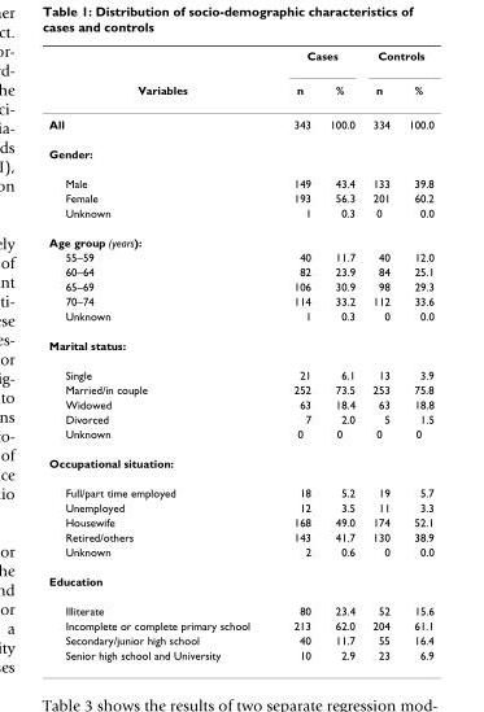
<table><thead><tr><td rowspan="2">Variables</td><td colspan="2">Cases</td><td colspan="2">Controls</td></tr><tr><td>n</td><td>%</td><td>n</td><td>%</td></tr></thead><tbody><tr><td>All</td><td>343</td><td>100.0</td><td>334</td><td>100.0</td></tr><tr><td colspan="5">Gender:</td></tr><tr><td>Male</td><td>149</td><td>43.4</td><td>133</td><td>39.8</td></tr><tr><td>Female</td><td>193</td><td>56.3</td><td>201</td><td>60.2</td></tr><tr><td>Unknown</td><td>1</td><td>0.3</td><td>0</td><td>0.0</td></tr><tr><td colspan="5">Age group (years):</td></tr><tr><td>55–59</td><td>40</td><td>11.7</td><td>40</td><td>12.0</td></tr><tr><td>60–64</td><td>82</td><td>23.9</td><td>84</td><td>25.1</td></tr><tr><td>65–69</td><td>106</td><td>30.9</td><td>98</td><td>29.3</td></tr><tr><td>70–74</td><td>114</td><td>33.2</td><td>112</td><td>33.6</td></tr><tr><td>Unknown</td><td>1</td><td>0.3</td><td>0</td><td>0.0</td></tr><tr><td colspan="5">Marital status:</td></tr><tr><td>Single</td><td>21</td><td>6.1</td><td>13</td><td>3.9</td></tr><tr><td>Married/in couple</td><td>252</td><td>73.5</td><td>253</td><td>75.8</td></tr><tr><td>Widowed</td><td>63</td><td>18.4</td><td>63</td><td>18.8</td></tr><tr><td>Divorced</td><td>7</td><td>2.0</td><td>5</td><td>1.5</td></tr><tr><td>Unknown</td><td>0</td><td>0</td><td>0</td><td>0</td></tr><tr><td colspan="5">Occupational situation:</td></tr><tr><td>Full/part time employed</td><td>18</td><td>5.2</td><td>19</td><td>5.7</td></tr><tr><td>Unemployed</td><td>12</td><td>3.5</td><td>11</td><td>3.3</td></tr><tr><td>Housewife</td><td>168</td><td>49.0</td><td>174</td><td>52.1</td></tr><tr><td>Retired/others</td><td>143</td><td>41.7</td><td>130</td><td>38.9</td></tr><tr><td>Unknown</td><td>2</td><td>0.6</td><td>0</td><td>0.0</td></tr><tr><td colspan="5">Education</td></tr><tr><td>Illiterate</td><td>80</td><td>23.4</td><td>52</td><td>15.6</td></tr><tr><td>Incomplete or complete primary school</td><td>213</td><td>62.0</td><td>204</td><td>61.1</td></tr><tr><td>Secondary/junior high school</td><td>40</td><td>11.7</td><td>55</td><td>16.4</td></tr><tr><td>Senior high school and University</td><td>10</td><td>2.9</td><td>23</td><td>6.9</td></tr></tbody></table>